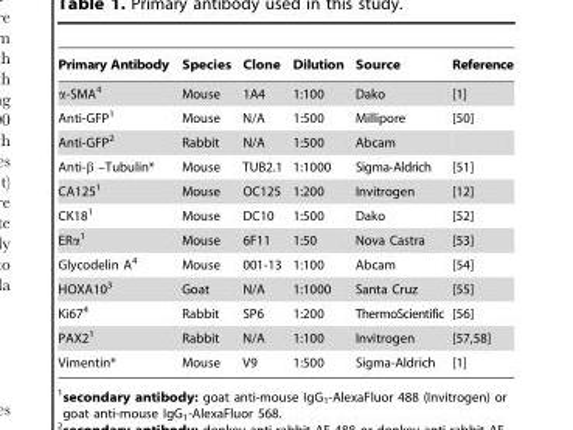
<table><thead><tr><td>Primary Antibody</td><td>Species</td><td>Clone</td><td>Dilution</td><td>Source</td><td>Reference</td></tr></thead><tbody><tr><td>α-SMA<sup>4</sup></td><td>Mouse</td><td>1A4</td><td>1:100</td><td>Dako</td><td>[1]</td></tr><tr><td>Anti-GFP<sup>1</sup></td><td>Mouse</td><td>N/A</td><td>1:500</td><td>Millipore</td><td>[50]</td></tr><tr><td>Anti-GFP<sup>2</sup></td><td>Rabbit</td><td>N/A</td><td>1:500</td><td>Abcam</td><td></td></tr><tr><td>Anti-β –Tubulin*</td><td>Mouse</td><td>TUB2.1</td><td>1:1000</td><td>Sigma-Aldrich</td><td>[51]</td></tr><tr><td>CA125<sup>1</sup></td><td>Mouse</td><td>OC125</td><td>1:200</td><td>Invitrogen</td><td>[12]</td></tr><tr><td>CK18<sup>1</sup></td><td>Mouse</td><td>DC10</td><td>1:500</td><td>Dako</td><td>[52]</td></tr><tr><td>ERα<sup>1</sup></td><td>Mouse</td><td>6F11</td><td>1:50</td><td>Nova Castra</td><td>[53]</td></tr><tr><td>Glycodelin A<sup>4</sup></td><td>Mouse</td><td>001-13</td><td>1:100</td><td>Abcam</td><td>[54]</td></tr><tr><td>HOXA10<sup>3</sup></td><td>Goat</td><td>N/A</td><td>1:1000</td><td>Santa Cruz</td><td>[55]</td></tr><tr><td>Ki67<sup>4</sup></td><td>Rabbit</td><td>SP6</td><td>1:200</td><td>ThermoScientific</td><td>[56]</td></tr><tr><td>PAX2<sup>1</sup></td><td>Rabbit</td><td>N/A</td><td>1:100</td><td>Invitrogen</td><td>[57,58]</td></tr><tr><td>Vimentin*</td><td>Mouse</td><td>V9</td><td>1:500</td><td>Sigma-Aldrich</td><td>[1]</td></tr></tbody></table>